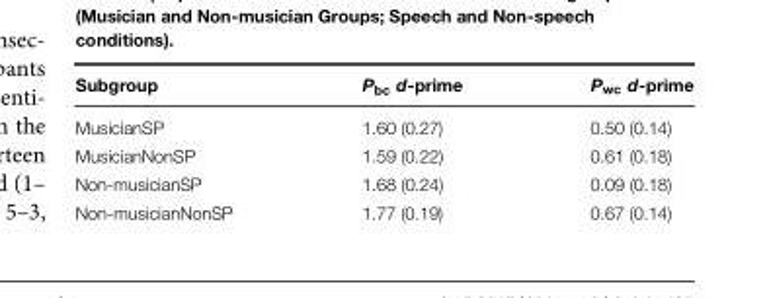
<table><thead><tr><td>Subgroup</td><td>P<sub>bc</sub> d-prime</td><td>P<sub>wc</sub> d-prime</td></tr></thead><tbody><tr><td>MusicianSP</td><td>1.60 (0.27)</td><td>0.50 (0.14)</td></tr><tr><td>MusicianNonSP</td><td>1.59 (0.22)</td><td>0.61 (0.18)</td></tr><tr><td>Non-musicianSP</td><td>1.68 (0.24)</td><td>0.09 (0.18)</td></tr><tr><td>Non-musicianNonSP</td><td>1.77 (0.19)</td><td>0.67 (0.14)</td></tr></tbody></table>